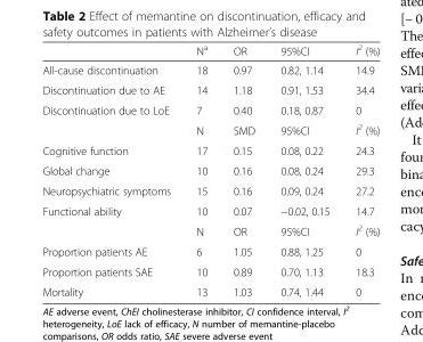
<table><thead><tr><td></td><td>N<sup>a</sup></td><td>OR</td><td>95%CI</td><td>I<sup>2</sup> (%)</td></tr></thead><tbody><tr><td>All-cause discontinuation</td><td>18</td><td>0.97</td><td>0.82, 1.14</td><td>14.9</td></tr><tr><td>Discontinuation due to AE</td><td>14</td><td>1.18</td><td>0.91, 1.53</td><td>34.4</td></tr><tr><td rowspan="2">Discontinuation due to LoE</td><td>7</td><td>0.40</td><td>0.18, 0.87</td><td>0</td></tr><tr><td>N</td><td>SMD</td><td>95%CI</td><td>I<sup>2</sup> (%)</td></tr><tr><td>Cognitive function</td><td>17</td><td>0.15</td><td>0.08, 0.22</td><td>24.3</td></tr><tr><td>Global change</td><td>10</td><td>0.16</td><td>0.08, 0.24</td><td>29.3</td></tr><tr><td>Neuropsychiatric symptoms</td><td>15</td><td>0.16</td><td>0.09, 0.24</td><td>27.2</td></tr><tr><td rowspan="2">Functional ability</td><td>10</td><td>0.07</td><td>−0.02, 0.15</td><td>14.7</td></tr><tr><td>N</td><td>OR</td><td>95%CI</td><td>I<sup>2</sup> (%)</td></tr><tr><td>Proportion patients AE</td><td>6</td><td>1.05</td><td>0.88, 1.25</td><td>0</td></tr><tr><td>Proportion patients SAE</td><td>10</td><td>0.89</td><td>0.70, 1.13</td><td>18.3</td></tr><tr><td>Mortality</td><td>13</td><td>1.03</td><td>0.74, 1.44</td><td>0</td></tr></tbody></table>